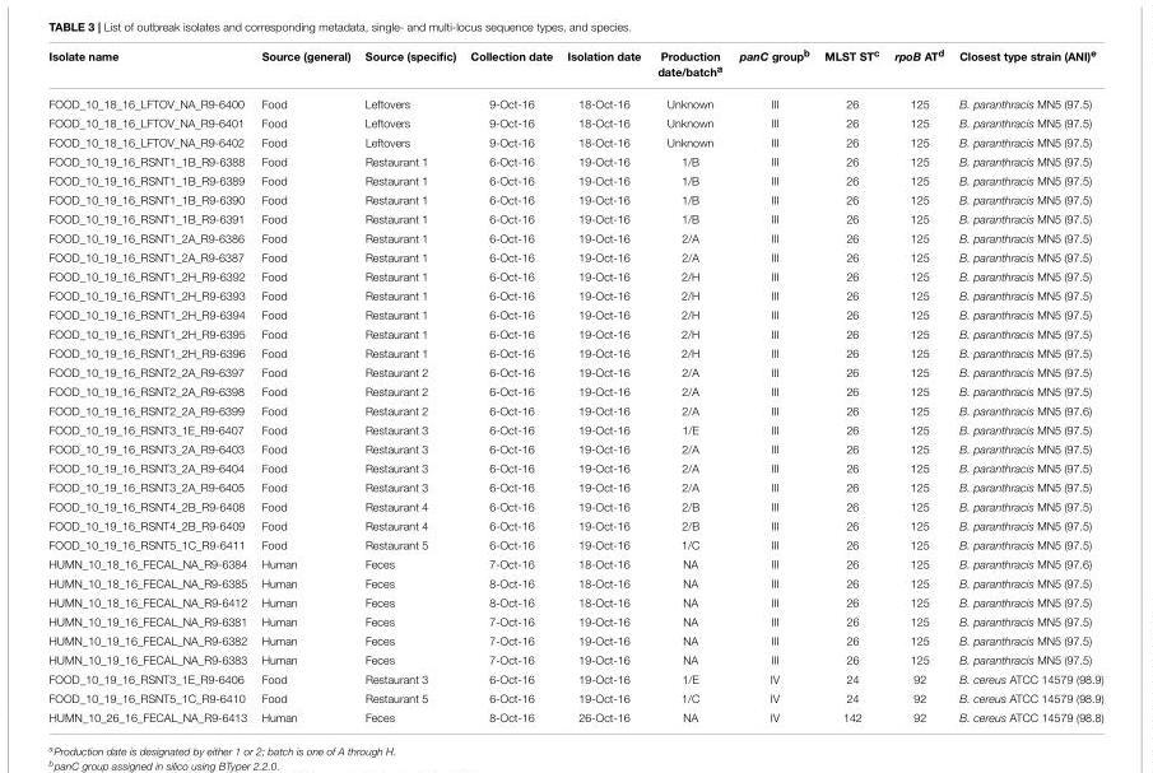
<table><thead><tr><td>Isolate name</td><td>Source (general)</td><td>Source (specific)</td><td>Collection date</td><td>Isolation date</td><td>Production date/batch<sup>a</sup></td><td>panC group<sup>b</sup></td><td>MLST ST<sup>c</sup></td><td>rpoB AT<sup>d</sup></td><td>Closest type strain (ANI)<sup>e</sup></td></tr></thead><tbody><tr><td>FOOD_10_18_16_LFTOV_NA_R9-6400</td><td>Food</td><td>Leftovers</td><td>9-Oct-16</td><td>18-Oct-16</td><td>Unknown</td><td>III</td><td>26</td><td>125</td><td>B. paranthracis MN5 (97.5)</td></tr><tr><td>FOOD_10_18_16_LFTOV_NA_R9-6401</td><td>Food</td><td>Leftovers</td><td>9-Oct-16</td><td>18-Oct-16</td><td>Unknown</td><td>III</td><td>26</td><td>125</td><td>B. paranthracis MN5 (97.5)</td></tr><tr><td>FOOD_10_18_16_LFTOV_NA_R9-6402</td><td>Food</td><td>Leftovers</td><td>9-Oct-16</td><td>18-Oct-16</td><td>Unknown</td><td>III</td><td>26</td><td>125</td><td>B. paranthracis MN5 (97.5)</td></tr><tr><td>FOOD_10_19_16_RSNT1_1B_R9-6388</td><td>Food</td><td>Restaurant 1</td><td>6-Oct-16</td><td>19-Oct-16</td><td>1/B</td><td>III</td><td>26</td><td>125</td><td>B. paranthracis MN5 (97.5)</td></tr><tr><td>FOOD_10_19_16_RSNT1_1B_R9-6389</td><td>Food</td><td>Restaurant 1</td><td>6-Oct-16</td><td>19-Oct-16</td><td>1/B</td><td>III</td><td>26</td><td>125</td><td>B. paranthracis MN5 (97.5)</td></tr><tr><td>FOOD_10_19_16_RSNT1_1B_R9-6390</td><td>Food</td><td>Restaurant 1</td><td>6-Oct-16</td><td>19-Oct-16</td><td>1/B</td><td>III</td><td>26</td><td>125</td><td>B. paranthracis MN5 (97.5)</td></tr><tr><td>FOOD_10_19_16_RSNT1_1B_R9-6391</td><td>Food</td><td>Restaurant 1</td><td>6-Oct-16</td><td>19-Oct-16</td><td>1/B</td><td>III</td><td>26</td><td>125</td><td>B. paranthracis MN5 (97.5)</td></tr><tr><td>FOOD_10_19_16_RSNT1_2A_R9-6386</td><td>Food</td><td>Restaurant 1</td><td>6-Oct-16</td><td>19-Oct-16</td><td>2/A</td><td>III</td><td>26</td><td>125</td><td>B. paranthracis MN5 (97.5)</td></tr><tr><td>FOOD_10_19_16_RSNT1_2A_R9-6387</td><td>Food</td><td>Restaurant 1</td><td>6-Oct-16</td><td>19-Oct-16</td><td>2/A</td><td>III</td><td>26</td><td>125</td><td>B. paranthracis MN5 (97.5)</td></tr><tr><td>FOOD_10_19_16_RSNT1_2H_R9-6392</td><td>Food</td><td>Restaurant 1</td><td>6-Oct-16</td><td>19-Oct-16</td><td>2/H</td><td>III</td><td>26</td><td>125</td><td>B. paranthracis MN5 (97.5)</td></tr><tr><td>FOOD_10_19_16_RSNT1_2H_R9-6393</td><td>Food</td><td>Restaurant 1</td><td>6-Oct-16</td><td>19-Oct-16</td><td>2/H</td><td>III</td><td>26</td><td>125</td><td>B. paranthracis MN5 (97.5)</td></tr><tr><td>FOOD_10_19_16_RSNT1_2H_R9-6394</td><td>Food</td><td>Restaurant 1</td><td>6-Oct-16</td><td>19-Oct-16</td><td>2/H</td><td>III</td><td>26</td><td>125</td><td>B. paranthracis MN5 (97.5)</td></tr><tr><td>FOOD_10_19_16_RSNT1_2H_R9-6395</td><td>Food</td><td>Restaurant 1</td><td>6-Oct-16</td><td>19-Oct-16</td><td>2/H</td><td>III</td><td>26</td><td>125</td><td>B. paranthracis MN5 (97.5)</td></tr><tr><td>FOOD_10_19_16_RSNT1_2H_R9-6396</td><td>Food</td><td>Restaurant 1</td><td>6-Oct-16</td><td>19-Oct-16</td><td>2/H</td><td>III</td><td>26</td><td>125</td><td>B. paranthracis MN5 (97.5)</td></tr><tr><td>FOOD_10_19_16_RSNT2_2A_R9-6397</td><td>Food</td><td>Restaurant 2</td><td>6-Oct-16</td><td>19-Oct-16</td><td>2/A</td><td>III</td><td>26</td><td>125</td><td>B. paranthracis MN5 (97.5)</td></tr><tr><td>FOOD_10_19_16_RSNT2_2A_R9-6398</td><td>Food</td><td>Restaurant 2</td><td>6-Oct-16</td><td>19-Oct-16</td><td>2/A</td><td>III</td><td>26</td><td>125</td><td>B. paranthracis MN5 (97.5)</td></tr><tr><td>FOOD_10_19_16_RSNT2_2A_R9-6399</td><td>Food</td><td>Restaurant 2</td><td>6-Oct-16</td><td>19-Oct-16</td><td>2/A</td><td>III</td><td>26</td><td>125</td><td>B. paranthracis MN5 (97.6)</td></tr><tr><td>FOOD_10_19_16_RSNT3_1E_R9-6407</td><td>Food</td><td>Restaurant 3</td><td>6-Oct-16</td><td>19-Oct-16</td><td>1/E</td><td>III</td><td>26</td><td>125</td><td>B. paranthracis MN5 (97.5)</td></tr><tr><td>FOOD_10_19_16_RSNT3_2A_R9-6403</td><td>Food</td><td>Restaurant 3</td><td>6-Oct-16</td><td>19-Oct-16</td><td>2/A</td><td>III</td><td>26</td><td>125</td><td>B. paranthracis MN5 (97.5)</td></tr><tr><td>FOOD_10_19_16_RSNT3_2A_R9-6404</td><td>Food</td><td>Restaurant 3</td><td>6-Oct-16</td><td>19-Oct-16</td><td>2/A</td><td>III</td><td>26</td><td>125</td><td>B. paranthracis MN5 (97.5)</td></tr><tr><td>FOOD_10_19_16_RSNT3_2A_R9-6405</td><td>Food</td><td>Restaurant 3</td><td>6-Oct-16</td><td>19-Oct-16</td><td>2/A</td><td>III</td><td>26</td><td>125</td><td>B. paranthracis MN5 (97.5)</td></tr><tr><td>FOOD_10_19_16_RSNT4_2B_R9-6408</td><td>Food</td><td>Restaurant 4</td><td>6-Oct-16</td><td>19-Oct-16</td><td>2/B</td><td>III</td><td>26</td><td>125</td><td>B. paranthracis MN5 (97.5)</td></tr><tr><td>FOOD_10_19_16_RSNT4_2B_R9-6409</td><td>Food</td><td>Restaurant 4</td><td>6-Oct-16</td><td>19-Oct-16</td><td>2/B</td><td>III</td><td>26</td><td>125</td><td>B. paranthracis MN5 (97.5)</td></tr><tr><td>FOOD_10_19_16_RSNT5_1C_R9-6411</td><td>Food</td><td>Restaurant 5</td><td>6-Oct-16</td><td>19-Oct-16</td><td>1/C</td><td>III</td><td>26</td><td>125</td><td>B. paranthracis MN5 (97.5)</td></tr><tr><td>HUMN_10_18_16_FECAL_NA_R9-6384</td><td>Human</td><td>Feces</td><td>7-Oct-16</td><td>18-Oct-16</td><td>NA</td><td>III</td><td>26</td><td>125</td><td>B. paranthracis MN5 (97.6)</td></tr><tr><td>HUMN_10_18_16_FECAL_NA_R9-6385</td><td>Human</td><td>Feces</td><td>8-Oct-16</td><td>18-Oct-16</td><td>NA</td><td>III</td><td>26</td><td>125</td><td>B. paranthracis MN5 (97.5)</td></tr><tr><td>HUMN_10_18_16_FECAL_NA_R9-6412</td><td>Human</td><td>Feces</td><td>8-Oct-16</td><td>18-Oct-16</td><td>NA</td><td>III</td><td>26</td><td>125</td><td>B. paranthracis MN5 (97.5)</td></tr><tr><td>HUMN_10_19_16_FECAL_NA_R9-6381</td><td>Human</td><td>Feces</td><td>7-Oct-16</td><td>19-Oct-16</td><td>NA</td><td>III</td><td>26</td><td>125</td><td>B. paranthracis MN5 (97.5)</td></tr><tr><td>HUMN_10_19_16_FECAL_NA_R9-6382</td><td>Human</td><td>Feces</td><td>7-Oct-16</td><td>19-Oct-16</td><td>NA</td><td>III</td><td>26</td><td>125</td><td>B. paranthracis MN5 (97.5)</td></tr><tr><td>HUMN_10_19_16_FECAL_NA_R9-6383</td><td>Human</td><td>Feces</td><td>7-Oct-16</td><td>19-Oct-16</td><td>NA</td><td>III</td><td>26</td><td>125</td><td>B. paranthracis MN5 (97.5)</td></tr><tr><td>FOOD_10_19_16_RSNT3_1E_R9-6406</td><td>Food</td><td>Restaurant 3</td><td>6-Oct-16</td><td>19-Oct-16</td><td>1/E</td><td>IV</td><td>24</td><td>92</td><td>B. cereus ATCC 14579 (98.9)</td></tr><tr><td>FOOD_10_19_16_RSNT5_1C_R9-6410</td><td>Food</td><td>Restaurant 5</td><td>6-Oct-16</td><td>19-Oct-16</td><td>1/C</td><td>IV</td><td>24</td><td>92</td><td>B. cereus ATCC 14579 (98.9)</td></tr><tr><td>HUMN_10_26_16_FECAL_NA_R9-6413</td><td>Human</td><td>Feces</td><td>8-Oct-16</td><td>26-Oct-16</td><td>NA</td><td>IV</td><td>142</td><td>92</td><td>B. cereus ATCC 14579 (98.8)</td></tr></tbody></table>